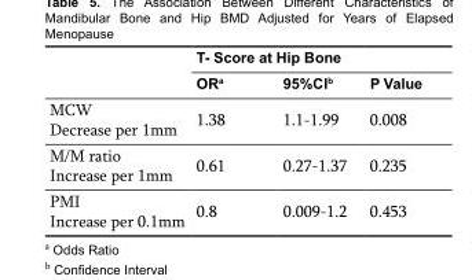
<table><thead><tr><td rowspan="2"></td><td colspan="3">T- Score at Hip Bone</td></tr><tr><td>OR<sup>a</sup></td><td>95%CI<sup>b</sup></td><td>P Value</td></tr></thead><tbody><tr><td>MCW Decrease per 1mm</td><td>1.38</td><td>1.1-1.99</td><td>0.008</td></tr><tr><td>M/M ratio Increase per 1mm</td><td>0.61</td><td>0.27-1.37</td><td>0.235</td></tr><tr><td>PMI Increase per 0.1mm</td><td>0.8</td><td>0.009-1.2</td><td>0.453</td></tr></tbody></table>